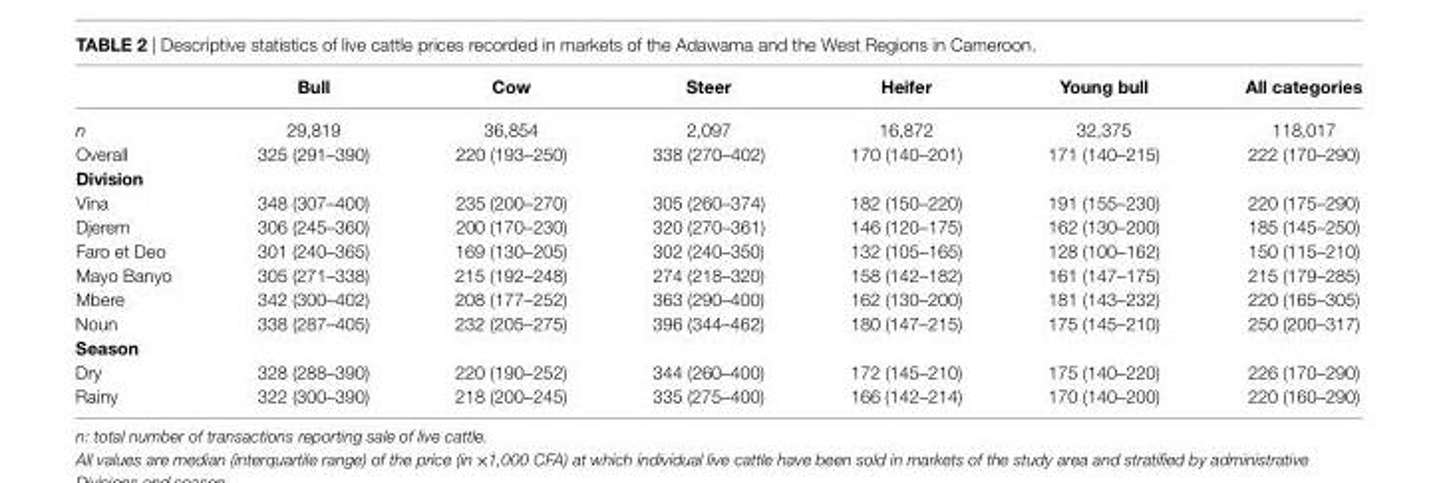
<table><thead><tr><td></td><td>bull</td><td>cow</td><td>steer</td><td>heifer</td><td>Young bull</td><td>all categories</td></tr></thead><tbody><tr><td>n</td><td>29,819</td><td>36,854</td><td>2,097</td><td>16,872</td><td>32,375</td><td>118,017</td></tr><tr><td>Overall</td><td>325 (291–390)</td><td>220 (193–250)</td><td>338 (270–402)</td><td>170 (140–201)</td><td>171 (140–215)</td><td>222 (170–290)</td></tr><tr><td colspan="7">Division</td></tr><tr><td>Vina</td><td>348 (307–400)</td><td>235 (200–270)</td><td>305 (260–374)</td><td>182 (150–220)</td><td>191 (155–230)</td><td>220 (175–290)</td></tr><tr><td>Djerem</td><td>306 (245–360)</td><td>200 (170–230)</td><td>320 (270–361)</td><td>146 (120–175)</td><td>162 (130–200)</td><td>185 (145–250)</td></tr><tr><td>Faro et Deo</td><td>301 (240–365)</td><td>169 (130–205)</td><td>302 (240–350)</td><td>132 (105–165)</td><td>128 (100–162)</td><td>150 (115–210)</td></tr><tr><td>Mayo Banyo</td><td>305 (271–338)</td><td>215 (192–248)</td><td>274 (218–320)</td><td>158 (142–182)</td><td>161 (147–175)</td><td>215 (179–285)</td></tr><tr><td>Mbere</td><td>342 (300–402)</td><td>208 (177–252)</td><td>363 (290–400)</td><td>162 (130–200)</td><td>181 (143–232)</td><td>220 (165–305)</td></tr><tr><td>Noun</td><td>338 (287–405)</td><td>232 (205–275)</td><td>396 (344–462)</td><td>180 (147–215)</td><td>175 (145–210)</td><td>250 (200–317)</td></tr><tr><td colspan="7">season</td></tr><tr><td>Dry</td><td>328 (288–390)</td><td>220 (190–252)</td><td>344 (260–400)</td><td>172 (145–210)</td><td>175 (140–220)</td><td>226 (170–290)</td></tr><tr><td>Rainy</td><td>322 (300–390)</td><td>218 (200–245)</td><td>335 (275–400)</td><td>166 (142–214)</td><td>170 (140–200)</td><td>220 (160–290)</td></tr></tbody></table>